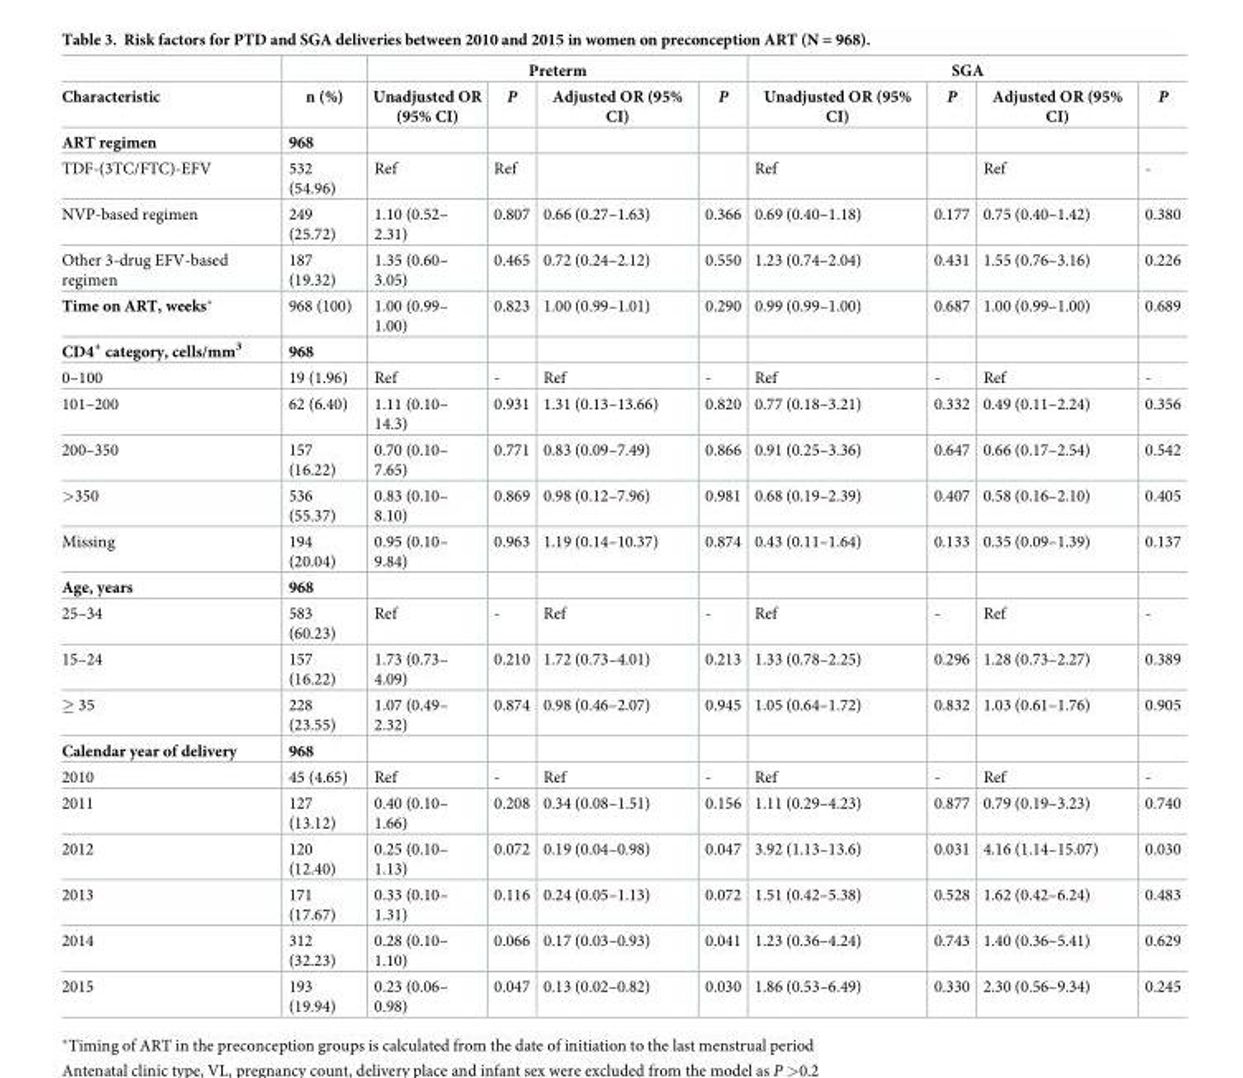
<table><thead><tr><td rowspan="2">Characteristic</td><td rowspan="2">n (%)</td><td colspan="4">Preterm</td><td colspan="4">SGA</td></tr><tr><td>Unadjusted OR (95% CI)</td><td>P</td><td>Adjusted OR (95% CI)</td><td>P</td><td>Unadjusted OR (95% CI)</td><td>P</td><td>Adjusted OR (95% CI)</td><td>P</td></tr></thead><tbody><tr><td>ART regimen</td><td>968</td><td></td><td></td><td></td><td></td><td></td><td></td><td></td><td></td></tr><tr><td>TDF-(3TC/FTC)-EFV</td><td>532 (54.96)</td><td>Ref</td><td>Ref</td><td></td><td></td><td>Ref</td><td></td><td>Ref</td><td>-</td></tr><tr><td>NVP-based regimen</td><td>249 (25.72)</td><td>1.10 (0.52– 2.31)</td><td>0.807</td><td>0.66 (0.27–1.63)</td><td>0.366</td><td>0.69 (0.40–1.18)</td><td>0.177</td><td>0.75 (0.40–1.42)</td><td>0.380</td></tr><tr><td>Other 3-drug EFV-based regimen</td><td>187 (19.32)</td><td>1.35 (0.60– 3.05)</td><td>0.465</td><td>0.72 (0.24–2.12)</td><td>0.550</td><td>1.23 (0.74–2.04)</td><td>0.431</td><td>1.55 (0.76–3.16)</td><td>0.226</td></tr><tr><td>Time on ART, weeks*</td><td>968 (100)</td><td>1.00 (0.99– 1.00)</td><td>0.823</td><td>1.00 (0.99–1.01)</td><td>0.290</td><td>0.99 (0.99–1.00)</td><td>0.687</td><td>1.00 (0.99–1.00)</td><td>0.689</td></tr><tr><td>CD4<sup>+</sup> category, cells/mm<sup>3</sup></td><td>968</td><td></td><td></td><td></td><td></td><td></td><td></td><td></td><td></td></tr><tr><td>0–100</td><td>19 (1.96)</td><td>Ref</td><td>-</td><td>Ref</td><td>-</td><td>Ref</td><td>-</td><td>Ref</td><td>-</td></tr><tr><td>101–200</td><td>62 (6.40)</td><td>1.11 (0.10– 14.3)</td><td>0.931</td><td>1.31 (0.13–13.66)</td><td>0.820</td><td>0.77 (0.18–3.21)</td><td>0.332</td><td>0.49 (0.11–2.24)</td><td>0.356</td></tr><tr><td>200–350</td><td>157 (16.22)</td><td>0.70 (0.10– 7.65)</td><td>0.771</td><td>0.83 (0.09–7.49)</td><td>0.866</td><td>0.91 (0.25–3.36)</td><td>0.647</td><td>0.66 (0.17–2.54)</td><td>0.542</td></tr><tr><td>&gt;350</td><td>536 (55.37)</td><td>0.83 (0.10– 8.10)</td><td>0.869</td><td>0.98 (0.12–7.96)</td><td>0.981</td><td>0.68 (0.19–2.39)</td><td>0.407</td><td>0.58 (0.16–2.10)</td><td>0.405</td></tr><tr><td>Missing</td><td>194 (20.04)</td><td>0.95 (0.10– 9.84)</td><td>0.963</td><td>1.19 (0.14–10.37)</td><td>0.874</td><td>0.43 (0.11–1.64)</td><td>0.133</td><td>0.35 (0.09–1.39)</td><td>0.137</td></tr><tr><td>Age, years</td><td>968</td><td></td><td></td><td></td><td></td><td></td><td></td><td></td><td></td></tr><tr><td>25–34</td><td>583 (60.23)</td><td>Ref</td><td>-</td><td>Ref</td><td>-</td><td>Ref</td><td>-</td><td>Ref</td><td>-</td></tr><tr><td>15–24</td><td>157 (16.22)</td><td>1.73 (0.73– 4.09)</td><td>0.210</td><td>1.72 (0.73–4.01)</td><td>0.213</td><td>1.33 (0.78–2.25)</td><td>0.296</td><td>1.28 (0.73–2.27)</td><td>0.389</td></tr><tr><td>≥ 35</td><td>228 (23.55)</td><td>1.07 (0.49– 2.32)</td><td>0.874</td><td>0.98 (0.46–2.07)</td><td>0.945</td><td>1.05 (0.64–1.72)</td><td>0.832</td><td>1.03 (0.61–1.76)</td><td>0.905</td></tr><tr><td>Calendar year of delivery</td><td>968</td><td></td><td></td><td></td><td></td><td></td><td></td><td></td><td></td></tr><tr><td>2010</td><td>45 (4.65)</td><td>Ref</td><td>-</td><td>Ref</td><td>-</td><td>Ref</td><td>-</td><td>Ref</td><td>-</td></tr><tr><td>2011</td><td>127 (13.12)</td><td>0.40 (0.10– 1.66)</td><td>0.208</td><td>0.34 (0.08–1.51)</td><td>0.156</td><td>1.11 (0.29–4.23)</td><td>0.877</td><td>0.79 (0.19–3.23)</td><td>0.740</td></tr><tr><td>2012</td><td>120 (12.40)</td><td>0.25 (0.10– 1.13)</td><td>0.072</td><td>0.19 (0.04–0.98)</td><td>0.047</td><td>3.92 (1.13–13.6)</td><td>0.031</td><td>4.16 (1.14–15.07)</td><td>0.030</td></tr><tr><td>2013</td><td>171 (17.67)</td><td>0.33 (0.10– 1.31)</td><td>0.116</td><td>0.24 (0.05–1.13)</td><td>0.072</td><td>1.51 (0.42–5.38)</td><td>0.528</td><td>1.62 (0.42–6.24)</td><td>0.483</td></tr><tr><td>2014</td><td>312 (32.23)</td><td>0.28 (0.10– 1.10)</td><td>0.066</td><td>0.17 (0.03–0.93)</td><td>0.041</td><td>1.23 (0.36–4.24)</td><td>0.743</td><td>1.40 (0.36–5.41)</td><td>0.629</td></tr><tr><td>2015</td><td>193 (19.94)</td><td>0.23 (0.06– 0.98)</td><td>0.047</td><td>0.13 (0.02–0.82)</td><td>0.030</td><td>1.86 (0.53–6.49)</td><td>0.330</td><td>2.30 (0.56–9.34)</td><td>0.245</td></tr></tbody></table>